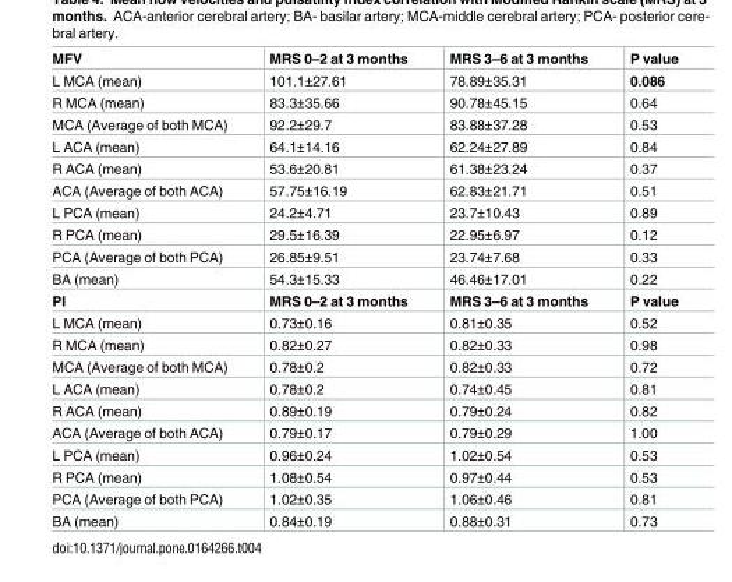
<table><tbody><tr><td>MFV</td><td>MRS 0–2 at 3 months</td><td>MRS 3–6 at 3 months</td><td>P value</td></tr><tr><td>L MCA (mean)</td><td>101.1±27.61</td><td>78.89±35.31</td><td>0.086</td></tr><tr><td>R MCA (mean)</td><td>83.3±35.66</td><td>90.78±45.15</td><td>0.64</td></tr><tr><td>MCA (Average of both MCA)</td><td>92.2±29.7</td><td>83.88±37.28</td><td>0.53</td></tr><tr><td>L ACA (mean)</td><td>64.1±14.16</td><td>62.24±27.89</td><td>0.84</td></tr><tr><td>R ACA (mean)</td><td>53.6±20.81</td><td>61.38±23.24</td><td>0.37</td></tr><tr><td>ACA (Average of both ACA)</td><td>57.75±16.19</td><td>62.83±21.71</td><td>0.51</td></tr><tr><td>L PCA (mean)</td><td>24.2±4.71</td><td>23.7±10.43</td><td>0.89</td></tr><tr><td>R PCA (mean)</td><td>29.5±16.39</td><td>22.95±6.97</td><td>0.12</td></tr><tr><td>PCA (Average of both PCA)</td><td>26.85±9.51</td><td>23.74±7.68</td><td>0.33</td></tr><tr><td>BA (mean)</td><td>54.3±15.33</td><td>46.46±17.01</td><td>0.22</td></tr><tr><td>PI</td><td>MRS 0–2 at 3 months</td><td>MRS 3–6 at 3 months</td><td>P value</td></tr><tr><td>L MCA (mean)</td><td>0.73±0.16</td><td>0.81±0.35</td><td>0.52</td></tr><tr><td>R MCA (mean)</td><td>0.82±0.27</td><td>0.82±0.33</td><td>0.98</td></tr><tr><td>MCA (Average of both MCA)</td><td>0.78±0.2</td><td>0.82±0.33</td><td>0.72</td></tr><tr><td>L ACA (mean)</td><td>0.78±0.2</td><td>0.74±0.45</td><td>0.81</td></tr><tr><td>R ACA (mean)</td><td>0.89±0.19</td><td>0.79±0.24</td><td>0.82</td></tr><tr><td>ACA (Average of both ACA)</td><td>0.79±0.17</td><td>0.79±0.29</td><td>1.00</td></tr><tr><td>L PCA (mean)</td><td>0.96±0.24</td><td>1.02±0.54</td><td>0.53</td></tr><tr><td>R PCA (mean)</td><td>1.08±0.54</td><td>0.97±0.44</td><td>0.53</td></tr><tr><td>PCA (Average of both PCA)</td><td>1.02±0.35</td><td>1.06±0.46</td><td>0.81</td></tr><tr><td>BA (mean)</td><td>0.84±0.19</td><td>0.88±0.31</td><td>0.73</td></tr></tbody></table>